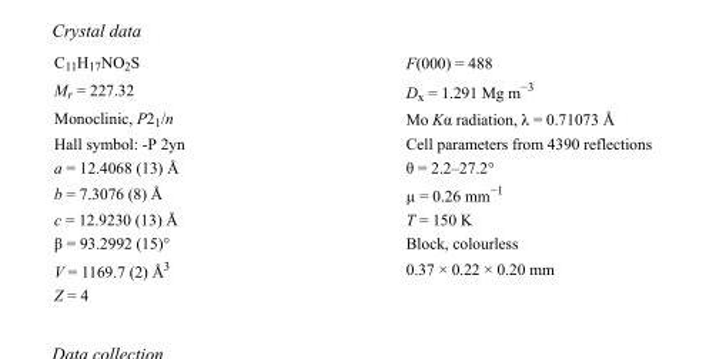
<table><tbody><tr><td>C<sub>11</sub>H<sub>17</sub>NO<sub>2</sub>S</td><td>F(000) = 488</td></tr><tr><td>M<sub>r</sub> = 227.32</td><td>D<sub>x</sub> = 1.291 Mg m<sup>−3</sup></td></tr><tr><td>Monoclinic, P2<sub>1</sub>/n</td><td>Mo Kα radiation, λ = 0.71073 Å</td></tr><tr><td>Hall symbol: -P 2yn</td><td>Cell parameters from 4390 reflections</td></tr><tr><td>a = 12.4068 (13) Å</td><td>θ = 2.2–27.2°</td></tr><tr><td>b = 7.3076 (8) Å</td><td>µ = 0.26 mm<sup>−1</sup></td></tr><tr><td>c = 12.9230 (13) Å</td><td>T = 150 K</td></tr><tr><td>β = 93.2992 (15)°</td><td>Block, colourless</td></tr><tr><td>V = 1169.7 (2) Å<sup>3</sup></td><td>0.37 × 0.22 × 0.20 mm</td></tr><tr><td>Z = 4</td><td></td></tr></tbody></table>